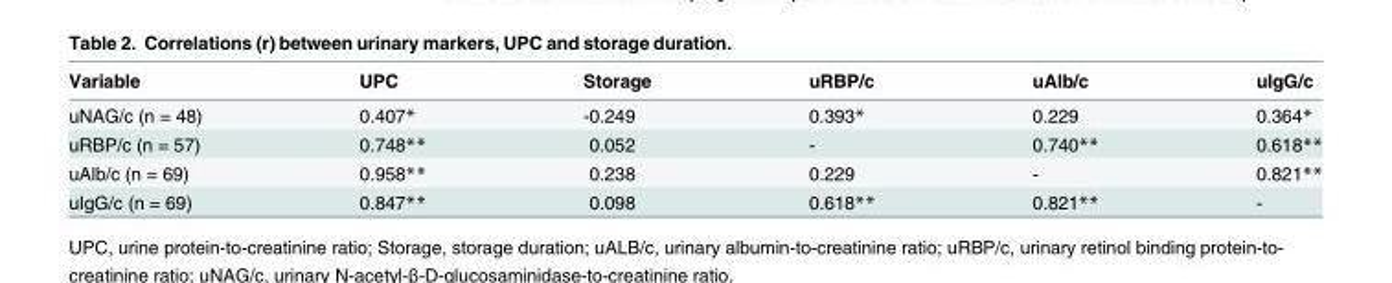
<table><thead><tr><td>Variable</td><td>UPC</td><td>Storage</td><td>uRBP/c</td><td>uAlb/c</td><td>uIgG/c</td></tr></thead><tbody><tr><td>uNAG/c (n = 48)</td><td>0.407*</td><td>-0.249</td><td>0.393*</td><td>0.229</td><td>0.364*</td></tr><tr><td>uRBP/c (n = 57)</td><td>0.748**</td><td>0.052</td><td>-</td><td>0.740**</td><td>0.618**</td></tr><tr><td>uAlb/c (n = 69)</td><td>0.958**</td><td>0.238</td><td>0.229</td><td>-</td><td>0.821**</td></tr><tr><td>uIgG/c (n = 69)</td><td>0.847**</td><td>0.098</td><td>0.618**</td><td>0.821**</td><td>-</td></tr></tbody></table>